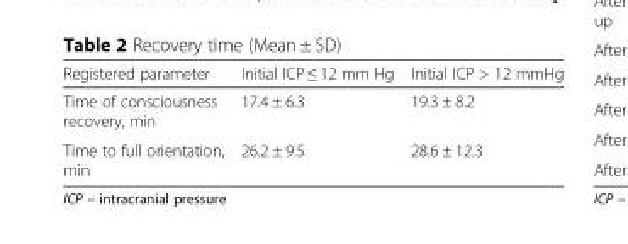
<table><thead><tr><td>Registered parameter</td><td>Initial ICP ≤ 12 mm Hg</td><td>Initial ICP &gt; 12 mmHg</td></tr></thead><tbody><tr><td>Time of consciousness recovery, min</td><td>17.4 ± 6.3</td><td>19.3 ± 8.2</td></tr><tr><td>Time to full orientation, min</td><td>26.2 ± 9.5</td><td>28.6 ± 12.3</td></tr></tbody></table>